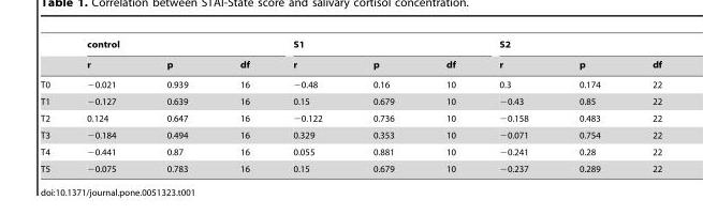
<table><thead><tr><td rowspan="2"></td><td colspan="3">control</td><td colspan="3">S1</td><td colspan="3">S2</td></tr><tr><td>r</td><td>p</td><td>df</td><td>r</td><td>p</td><td>df</td><td>r</td><td>p</td><td>df</td></tr></thead><tbody><tr><td>T0</td><td>−0.021</td><td>0.939</td><td>16</td><td>−0.48</td><td>0.16</td><td>10</td><td>0.3</td><td>0.174</td><td>22</td></tr><tr><td>T1</td><td>−0.127</td><td>0.639</td><td>16</td><td>0.15</td><td>0.679</td><td>10</td><td>−0.43</td><td>0.85</td><td>22</td></tr><tr><td>T2</td><td>0.124</td><td>0.647</td><td>16</td><td>−0.122</td><td>0.736</td><td>10</td><td>−0.158</td><td>0.483</td><td>22</td></tr><tr><td>T3</td><td>−0.184</td><td>0.494</td><td>16</td><td>0.329</td><td>0.353</td><td>10</td><td>−0.071</td><td>0.754</td><td>22</td></tr><tr><td>T4</td><td>−0.441</td><td>0.87</td><td>16</td><td>0.055</td><td>0.881</td><td>10</td><td>−0.241</td><td>0.28</td><td>22</td></tr><tr><td>T5</td><td>−0.075</td><td>0.783</td><td>16</td><td>0.15</td><td>0.679</td><td>10</td><td>−0.237</td><td>0.289</td><td>22</td></tr></tbody></table>